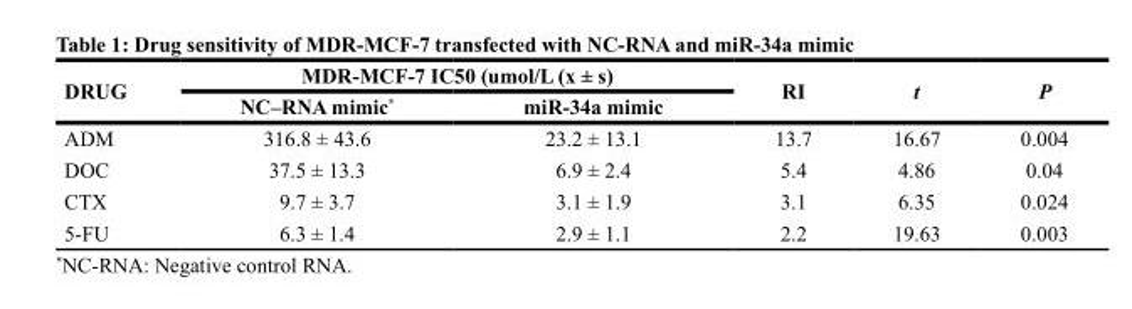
<table><thead><tr><td rowspan="2">DRUG</td><td colspan="2">MDR-MCF-7 IC50 (umol/L (x ± s)</td><td rowspan="2">RI</td><td rowspan="2">t</td><td rowspan="2">P</td></tr><tr><td>NC–RNA mimic*</td><td>miR-34a mimic</td></tr></thead><tbody><tr><td>ADM</td><td>316.8 ± 43.6</td><td>23.2 ± 13.1</td><td>13.7</td><td>16.67</td><td>0.004</td></tr><tr><td>DOC</td><td>37.5 ± 13.3</td><td>6.9 ± 2.4</td><td>5.4</td><td>4.86</td><td>0.04</td></tr><tr><td>CTX</td><td>9.7 ± 3.7</td><td>3.1 ± 1.9</td><td>3.1</td><td>6.35</td><td>0.024</td></tr><tr><td>5-FU</td><td>6.3 ± 1.4</td><td>2.9 ± 1.1</td><td>2.2</td><td>19.63</td><td>0.003</td></tr></tbody></table>